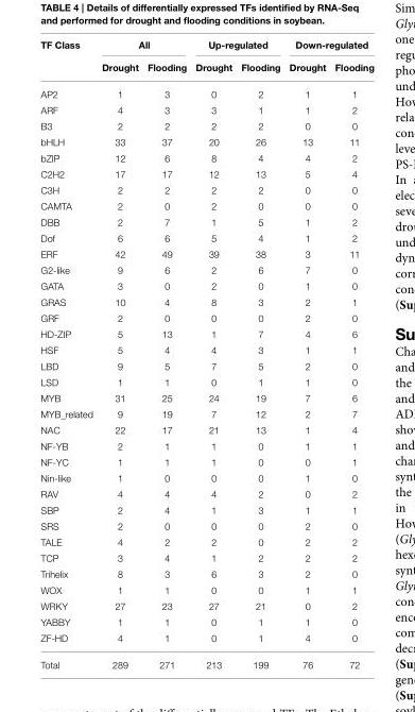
<table><thead><tr><td rowspan="2">TF Class</td><td colspan="2">All</td><td colspan="2">Up-regulated</td><td colspan="2">Down-regulated</td></tr><tr><td>Drought</td><td>Flooding</td><td>Drought</td><td>Flooding</td><td>Drought</td><td>Flooding</td></tr></thead><tbody><tr><td>AP2</td><td>1</td><td>3</td><td>0</td><td>2</td><td>1</td><td>1</td></tr><tr><td>ARF</td><td>4</td><td>3</td><td>3</td><td>1</td><td>1</td><td>2</td></tr><tr><td>B3</td><td>2</td><td>2</td><td>2</td><td>2</td><td>0</td><td>0</td></tr><tr><td>bHLH</td><td>33</td><td>37</td><td>20</td><td>26</td><td>13</td><td>11</td></tr><tr><td>bZIP</td><td>12</td><td>6</td><td>8</td><td>4</td><td>4</td><td>2</td></tr><tr><td>C2H2</td><td>17</td><td>17</td><td>12</td><td>13</td><td>5</td><td>4</td></tr><tr><td>C3H</td><td>2</td><td>2</td><td>2</td><td>2</td><td>0</td><td>0</td></tr><tr><td>CAMTA</td><td>2</td><td>0</td><td>2</td><td>0</td><td>0</td><td>0</td></tr><tr><td>DBB</td><td>2</td><td>7</td><td>1</td><td>5</td><td>1</td><td>2</td></tr><tr><td>Dof</td><td>6</td><td>6</td><td>5</td><td>4</td><td>1</td><td>2</td></tr><tr><td>ERF</td><td>42</td><td>49</td><td>39</td><td>38</td><td>3</td><td>11</td></tr><tr><td>G2-like</td><td>9</td><td>6</td><td>2</td><td>6</td><td>7</td><td>0</td></tr><tr><td>GATA</td><td>3</td><td>0</td><td>2</td><td>0</td><td>1</td><td>0</td></tr><tr><td>GRAS</td><td>10</td><td>4</td><td>8</td><td>3</td><td>2</td><td>1</td></tr><tr><td>GRF</td><td>2</td><td>0</td><td>0</td><td>0</td><td>2</td><td>0</td></tr><tr><td>HD-ZIP</td><td>5</td><td>13</td><td>1</td><td>7</td><td>4</td><td>6</td></tr><tr><td>HSF</td><td>5</td><td>4</td><td>4</td><td>3</td><td>1</td><td>1</td></tr><tr><td>LBD</td><td>9</td><td>5</td><td>7</td><td>5</td><td>2</td><td>0</td></tr><tr><td>LSD</td><td>1</td><td>1</td><td>0</td><td>1</td><td>1</td><td>0</td></tr><tr><td>MYB</td><td>31</td><td>25</td><td>24</td><td>19</td><td>7</td><td>6</td></tr><tr><td>MYB_related</td><td>9</td><td>19</td><td>7</td><td>12</td><td>2</td><td>7</td></tr><tr><td>NAC</td><td>22</td><td>17</td><td>21</td><td>13</td><td>1</td><td>4</td></tr><tr><td>NF-YB</td><td>2</td><td>1</td><td>1</td><td>0</td><td>1</td><td>1</td></tr><tr><td>NF-YC</td><td>1</td><td>1</td><td>1</td><td>0</td><td>0</td><td>1</td></tr><tr><td>Nin-like</td><td>1</td><td>0</td><td>0</td><td>0</td><td>1</td><td>0</td></tr><tr><td>RAV</td><td>4</td><td>4</td><td>4</td><td>2</td><td>0</td><td>2</td></tr><tr><td>SBP</td><td>2</td><td>4</td><td>1</td><td>3</td><td>1</td><td>1</td></tr><tr><td>SRS</td><td>2</td><td>0</td><td>0</td><td>0</td><td>2</td><td>0</td></tr><tr><td>TALE</td><td>4</td><td>2</td><td>2</td><td>0</td><td>2</td><td>2</td></tr><tr><td>TCP</td><td>3</td><td>4</td><td>1</td><td>2</td><td>2</td><td>2</td></tr><tr><td>Trihelix</td><td>8</td><td>3</td><td>6</td><td>3</td><td>2</td><td>0</td></tr><tr><td>WOX</td><td>1</td><td>1</td><td>0</td><td>0</td><td>1</td><td>1</td></tr><tr><td>WRKY</td><td>27</td><td>23</td><td>27</td><td>21</td><td>0</td><td>2</td></tr><tr><td>YABBY</td><td>1</td><td>1</td><td>0</td><td>1</td><td>1</td><td>0</td></tr><tr><td>ZF-HD</td><td>4</td><td>1</td><td>0</td><td>1</td><td>4</td><td>0</td></tr><tr><td>Total</td><td>289</td><td>271</td><td>213</td><td>199</td><td>76</td><td>72</td></tr></tbody></table>